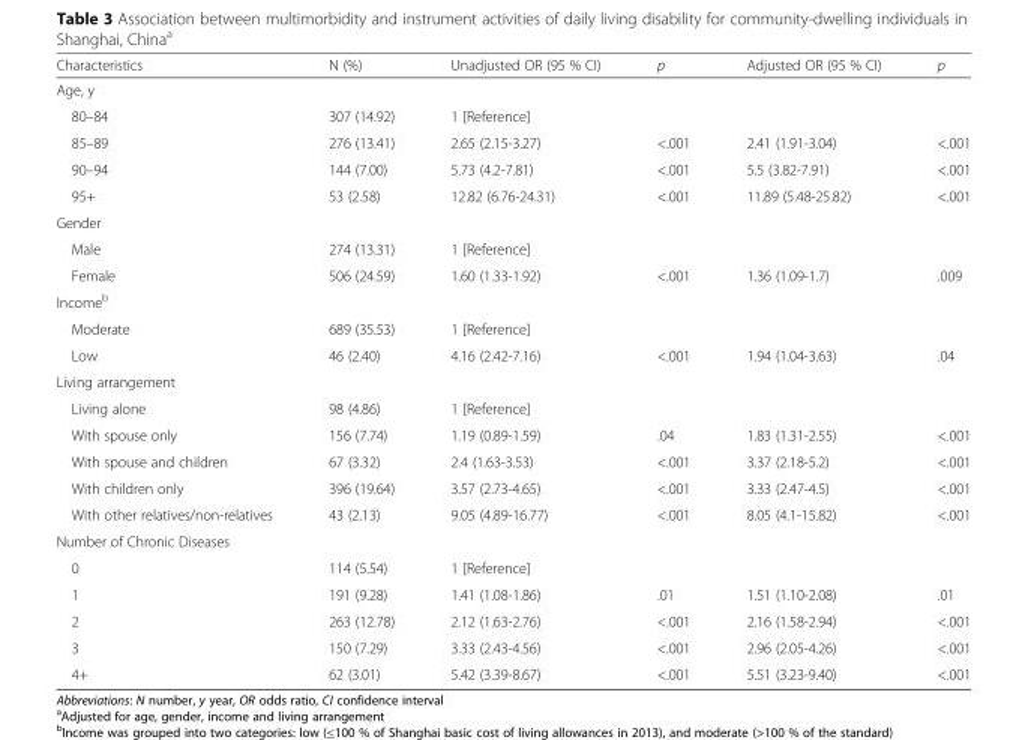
<table><thead><tr><td>Characteristics</td><td>N (%)</td><td>Unadjusted OR (95 % CI)</td><td>p</td><td>Adjusted OR (95 % CI)</td><td>p</td></tr></thead><tbody><tr><td colspan="6">Age, y</td></tr><tr><td>80–84</td><td>307 (14.92)</td><td colspan="4">1 [Reference]</td></tr><tr><td>85–89</td><td>276 (13.41)</td><td>2.65 (2.15-3.27)</td><td>&lt;.001</td><td>2.41 (1.91-3.04)</td><td>&lt;.001</td></tr><tr><td>90–94</td><td>144 (7.00)</td><td>5.73 (4.2-7.81)</td><td>&lt;.001</td><td>5.5 (3.82-7.91)</td><td>&lt;.001</td></tr><tr><td>95+</td><td>53 (2.58)</td><td>12.82 (6.76-24.31)</td><td>&lt;.001</td><td>11.89 (5.48-25.82)</td><td>&lt;.001</td></tr><tr><td colspan="6">Gender</td></tr><tr><td>Male</td><td>274 (13.31)</td><td colspan="4">1 [Reference]</td></tr><tr><td>Female</td><td>506 (24.59)</td><td>1.60 (1.33-1.92)</td><td>&lt;.001</td><td>1.36 (1.09-1.7)</td><td>.009</td></tr><tr><td colspan="6">Income<sup>b</sup></td></tr><tr><td>Moderate</td><td>689 (35.53)</td><td colspan="4">1 [Reference]</td></tr><tr><td>Low</td><td>46 (2.40)</td><td>4.16 (2.42-7.16)</td><td>&lt;.001</td><td>1.94 (1.04-3.63)</td><td>.04</td></tr><tr><td colspan="6">Living arrangement</td></tr><tr><td>Living alone</td><td>98 (4.86)</td><td colspan="4">1 [Reference]</td></tr><tr><td>With spouse only</td><td>156 (7.74)</td><td>1.19 (0.89-1.59)</td><td>.04</td><td>1.83 (1.31-2.55)</td><td>&lt;.001</td></tr><tr><td>With spouse and children</td><td>67 (3.32)</td><td>2.4 (1.63-3.53)</td><td>&lt;.001</td><td>3.37 (2.18-5.2)</td><td>&lt;.001</td></tr><tr><td>With children only</td><td>396 (19.64)</td><td>3.57 (2.73-4.65)</td><td>&lt;.001</td><td>3.33 (2.47-4.5)</td><td>&lt;.001</td></tr><tr><td>With other relatives/non-relatives</td><td>43 (2.13)</td><td>9.05 (4.89-16.77)</td><td>&lt;.001</td><td>8.05 (4.1-15.82)</td><td>&lt;.001</td></tr><tr><td colspan="6">Number of Chronic Diseases</td></tr><tr><td>0</td><td>114 (5.54)</td><td colspan="4">1 [Reference]</td></tr><tr><td>1</td><td>191 (9.28)</td><td>1.41 (1.08-1.86)</td><td>.01</td><td>1.51 (1.10-2.08)</td><td>.01</td></tr><tr><td>2</td><td>263 (12.78)</td><td>2.12 (1.63-2.76)</td><td>&lt;.001</td><td>2.16 (1.58-2.94)</td><td>&lt;.001</td></tr><tr><td>3</td><td>150 (7.29)</td><td>3.33 (2.43-4.56)</td><td>&lt;.001</td><td>2.96 (2.05-4.26)</td><td>&lt;.001</td></tr><tr><td>4+</td><td>62 (3.01)</td><td>5.42 (3.39-8.67)</td><td>&lt;.001</td><td>5.51 (3.23-9.40)</td><td>&lt;.001</td></tr></tbody></table>